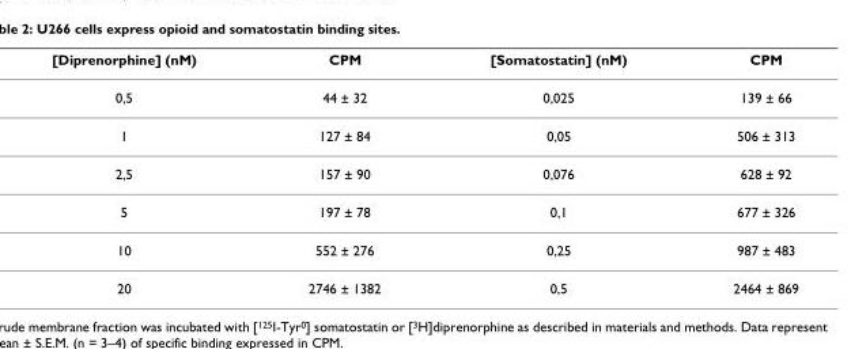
<table><thead><tr><td>[Diprenorphine] (nM)</td><td>CPM</td><td>[Somatostatin] (nM)</td><td>CPM</td></tr></thead><tbody><tr><td>0,5</td><td>44 ± 32</td><td>0,025</td><td>139 ± 66</td></tr><tr><td>1</td><td>127 ± 84</td><td>0,05</td><td>506 ± 313</td></tr><tr><td>2,5</td><td>157 ± 90</td><td>0,076</td><td>628 ± 92</td></tr><tr><td>5</td><td>197 ± 78</td><td>0,1</td><td>677 ± 326</td></tr><tr><td>10</td><td>552 ± 276</td><td>0,25</td><td>987 ± 483</td></tr><tr><td>20</td><td>2746 ± 1382</td><td>0,5</td><td>2464 ± 869</td></tr></tbody></table>